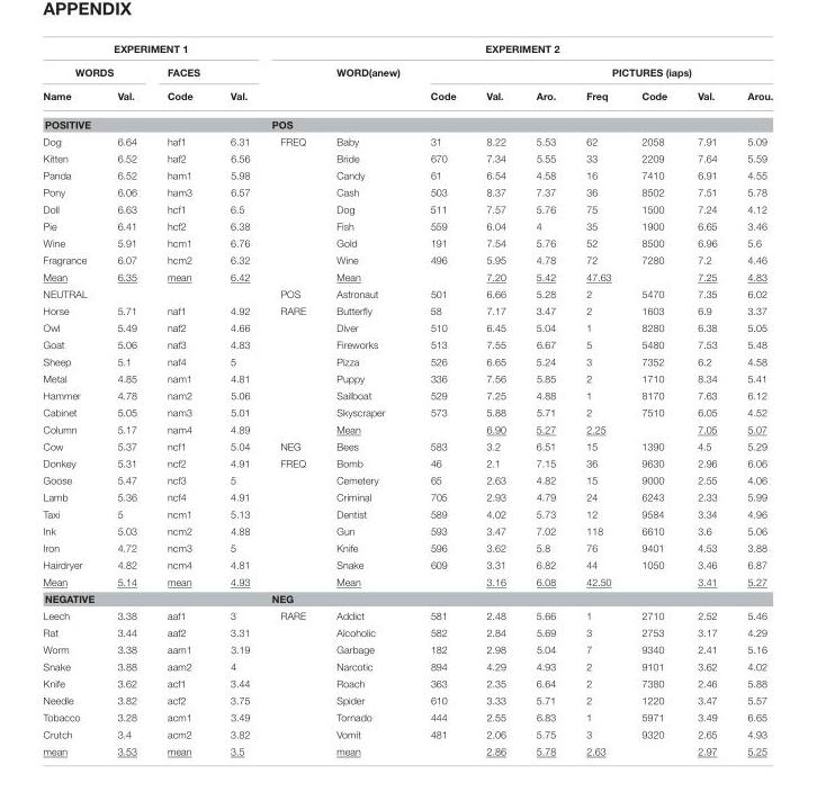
<table><thead><tr><td colspan="4">EXPERIMENT 1</td><td colspan="9">EXPERIMENT 2</td></tr><tr><td colspan="2">WORDS</td><td rowspan="2">FACES Code</td><td rowspan="2">Val.</td><td rowspan="2"></td><td rowspan="2">WORD(anew)</td><td rowspan="2">Code</td><td rowspan="2">Val.</td><td rowspan="2">Aro.</td><td colspan="3">PICTURES (iaps)</td><td rowspan="2">Arou.</td></tr><tr><td>Name</td><td>Val.</td><td>Freq</td><td>Code</td><td>Val.</td></tr></thead><tbody><tr><td colspan="4">POSITIVE</td><td colspan="9">POS</td></tr><tr><td>Dog</td><td>6.64</td><td>haf1</td><td>6.31</td><td>FREQ</td><td>Baby</td><td>31</td><td>8.22</td><td>5.53</td><td>62</td><td>2058</td><td>7.91</td><td>5.09</td></tr><tr><td>Kitten</td><td>6.52</td><td>haf2</td><td>6.56</td><td></td><td>Bride</td><td>670</td><td>7.34</td><td>5.55</td><td>33</td><td>2209</td><td>7.64</td><td>5.59</td></tr><tr><td>Panda</td><td>6.52</td><td>ham1</td><td>5.98</td><td></td><td>Candy</td><td>61</td><td>6.54</td><td>4.58</td><td>16</td><td>7410</td><td>6.91</td><td>4.55</td></tr><tr><td>Pony</td><td>6.06</td><td>ham3</td><td>6.57</td><td></td><td>Cash</td><td>503</td><td>8.37</td><td>7.37</td><td>36</td><td>8502</td><td>7.51</td><td>5.78</td></tr><tr><td>Doll</td><td>6.63</td><td>hcf1</td><td>6.5</td><td></td><td>Dog</td><td>511</td><td>7.57</td><td>5.76</td><td>75</td><td>1500</td><td>7.24</td><td>4.12</td></tr><tr><td>Pie</td><td>6.41</td><td>hcf2</td><td>6.38</td><td></td><td>Fish</td><td>559</td><td>6.04</td><td>4</td><td>35</td><td>1900</td><td>6.65</td><td>3.46</td></tr><tr><td>Wine</td><td>5.91</td><td>hcm1</td><td>6.76</td><td></td><td>Gold</td><td>191</td><td>7.54</td><td>5.76</td><td>52</td><td>8500</td><td>6.96</td><td>5.6</td></tr><tr><td>Fragrance</td><td>6.07</td><td>hcm2</td><td>6.32</td><td></td><td>Wine</td><td>496</td><td>5.95</td><td>4.78</td><td>72</td><td>7280</td><td>7.2</td><td>4.46</td></tr><tr><td>Mean</td><td>6.35</td><td>mean</td><td>6.42</td><td></td><td>Mean</td><td></td><td>7.20</td><td>5.42</td><td>47.63</td><td></td><td>7.25</td><td>4.83</td></tr><tr><td>NEUTRAL</td><td></td><td></td><td></td><td>POS</td><td>Astronaut</td><td>501</td><td>6.66</td><td>5.28</td><td>2</td><td>5470</td><td>7.35</td><td>6.02</td></tr><tr><td>Horse</td><td>5.71</td><td>naf1</td><td>4.92</td><td>RARE</td><td>Butterfly</td><td>58</td><td>7.17</td><td>3.47</td><td>2</td><td>1603</td><td>6.9</td><td>3.37</td></tr><tr><td>Owl</td><td>5.49</td><td>naf2</td><td>4.66</td><td></td><td>Diver</td><td>510</td><td>6.45</td><td>5.04</td><td>1</td><td>8280</td><td>6.38</td><td>5.05</td></tr><tr><td>Goat</td><td>5.06</td><td>naf3</td><td>4.83</td><td></td><td>Fireworks</td><td>513</td><td>7.55</td><td>6.67</td><td>5</td><td>5480</td><td>7.53</td><td>5.48</td></tr><tr><td>Sheep</td><td>5.1</td><td>naf4</td><td>5</td><td></td><td>Pizza</td><td>526</td><td>6.65</td><td>5.24</td><td>3</td><td>7352</td><td>6.2</td><td>4.58</td></tr><tr><td>Metal</td><td>4.85</td><td>nam1</td><td>4.81</td><td></td><td>Puppy</td><td>336</td><td>7.56</td><td>5.85</td><td>2</td><td>1710</td><td>8.34</td><td>5.41</td></tr><tr><td>Hammer</td><td>4.78</td><td>nam2</td><td>5.06</td><td></td><td>Sailboat</td><td>529</td><td>7.25</td><td>4.88</td><td>1</td><td>8170</td><td>7.63</td><td>6.12</td></tr><tr><td>Cabinet</td><td>5.05</td><td>nam3</td><td>5.01</td><td></td><td>Skyscraper</td><td>573</td><td>5.88</td><td>5.71</td><td>2</td><td>7510</td><td>6.05</td><td>4.52</td></tr><tr><td>Column</td><td>5.17</td><td>nam4</td><td>4.89</td><td></td><td>Mean</td><td></td><td>6.90</td><td>5.27</td><td>2.25</td><td></td><td>7.05</td><td>5.07</td></tr><tr><td>Cow</td><td>5.37</td><td>ncf1</td><td>5.04</td><td>NEG</td><td>Bees</td><td>583</td><td>3.2</td><td>6.51</td><td>15</td><td>1390</td><td>4.5</td><td>5.29</td></tr><tr><td>Donkey</td><td>5.31</td><td>ncf2</td><td>4.91</td><td>FREQ</td><td>Bomb</td><td>46</td><td>2.1</td><td>7.15</td><td>36</td><td>9630</td><td>2.96</td><td>6.06</td></tr><tr><td>Goose</td><td>5.47</td><td>ncf3</td><td>5</td><td></td><td>Cemetery</td><td>65</td><td>2.63</td><td>4.82</td><td>15</td><td>9000</td><td>2.55</td><td>4.06</td></tr><tr><td>Lamb</td><td>5.36</td><td>ncf4</td><td>4.91</td><td></td><td>Criminal</td><td>705</td><td>2.93</td><td>4.79</td><td>24</td><td>6243</td><td>2.33</td><td>5.99</td></tr><tr><td>Taxi</td><td>5</td><td>ncm1</td><td>5.13</td><td></td><td>Dentist</td><td>589</td><td>4.02</td><td>5.73</td><td>12</td><td>9584</td><td>3.34</td><td>4.96</td></tr><tr><td>Ink</td><td>5.03</td><td>ncm2</td><td>4.88</td><td></td><td>Gun</td><td>593</td><td>3.47</td><td>7.02</td><td>118</td><td>6610</td><td>3.6</td><td>5.06</td></tr><tr><td>Iron</td><td>4.72</td><td>ncm3</td><td>5</td><td></td><td>Knife</td><td>596</td><td>3.62</td><td>5.8</td><td>76</td><td>9401</td><td>4.53</td><td>3.88</td></tr><tr><td>Hairdryer</td><td>4.82</td><td>ncm4</td><td>4.81</td><td></td><td>Snake</td><td>609</td><td>3.31</td><td>6.82</td><td>44</td><td>1050</td><td>3.46</td><td>6.87</td></tr><tr><td>Mean</td><td>5.14</td><td>mean</td><td>4.93</td><td></td><td>Mean</td><td></td><td>3.16</td><td>6.08</td><td>42.50</td><td></td><td>3.41</td><td>5.27</td></tr><tr><td colspan="4">NEGATIVE</td><td colspan="9">NEG</td></tr><tr><td>Leech</td><td>3.38</td><td>aaf1</td><td>3</td><td>RARE</td><td>Addict</td><td>581</td><td>2.48</td><td>5.66</td><td>1</td><td>2710</td><td>2.52</td><td>5.46</td></tr><tr><td>Rat</td><td>3.44</td><td>aaf2</td><td>3.31</td><td></td><td>Alcoholic</td><td>582</td><td>2.84</td><td>5.69</td><td>3</td><td>2753</td><td>3.17</td><td>4.29</td></tr><tr><td>Worm</td><td>3.38</td><td>aam1</td><td>3.19</td><td></td><td>Garbage</td><td>182</td><td>2.98</td><td>5.04</td><td>7</td><td>9340</td><td>2.41</td><td>5.16</td></tr><tr><td>Snake</td><td>3.88</td><td>aam2</td><td>4</td><td></td><td>Narcotic</td><td>894</td><td>4.29</td><td>4.93</td><td>2</td><td>9101</td><td>3.62</td><td>4.02</td></tr><tr><td>Knife</td><td>3.62</td><td>acf1</td><td>3.44</td><td></td><td>Roach</td><td>363</td><td>2.35</td><td>6.64</td><td>2</td><td>7380</td><td>2.46</td><td>5.88</td></tr><tr><td>Needle</td><td>3.82</td><td>acf2</td><td>3.75</td><td></td><td>Spider</td><td>610</td><td>3.33</td><td>5.71</td><td>2</td><td>1220</td><td>3.47</td><td>5.57</td></tr><tr><td>Tobacco</td><td>3.28</td><td>acm1</td><td>3.49</td><td></td><td>Tornado</td><td>444</td><td>2.55</td><td>6.83</td><td>1</td><td>5971</td><td>3.49</td><td>6.65</td></tr><tr><td>Crutch</td><td>3.4</td><td>acm2</td><td>3.82</td><td></td><td>Vomit</td><td>481</td><td>2.06</td><td>5.75</td><td>3</td><td>9320</td><td>2.65</td><td>4.93</td></tr><tr><td>mean</td><td>3.53</td><td>mean</td><td>3.5</td><td></td><td>mean</td><td></td><td>2.86</td><td>5.78</td><td>2.63</td><td></td><td>2.97</td><td>5.25</td></tr></tbody></table>